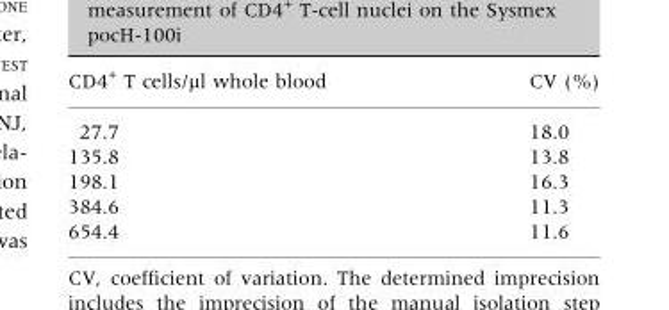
<table><thead><tr><td>CD4<sup>+</sup> T cells/μl whole blood</td><td>CV (%)</td></tr></thead><tbody><tr><td>27.7</td><td>18.0</td></tr><tr><td>135.8</td><td>13.8</td></tr><tr><td>198.1</td><td>16.3</td></tr><tr><td>384.6</td><td>11.3</td></tr><tr><td>654.4</td><td>11.6</td></tr></tbody></table>